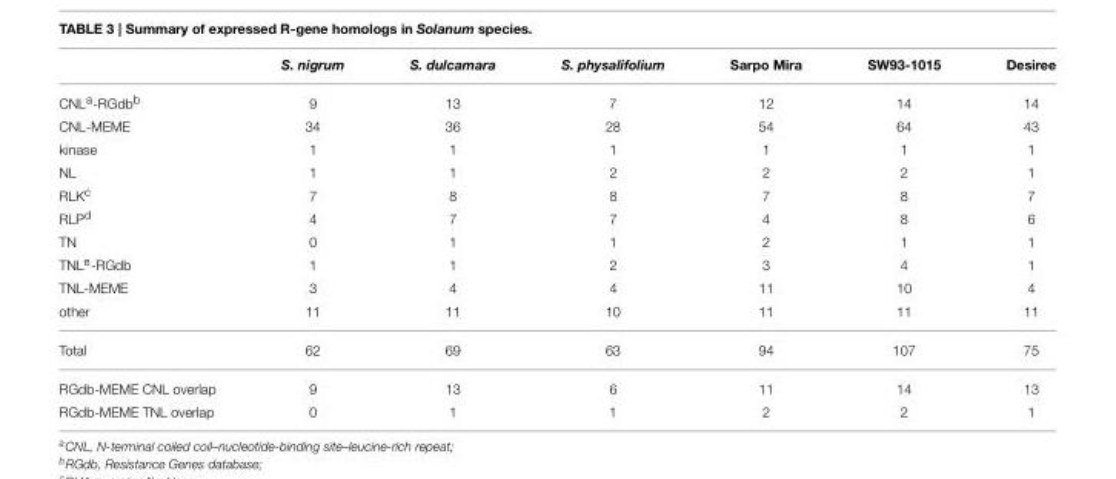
<table><thead><tr><td></td><td>S. nigrum</td><td>S. dulcamara</td><td>S. physalifolium</td><td>Sarpo Mira</td><td>SW93-1015</td><td>Desiree</td></tr></thead><tbody><tr><td>CNL<sup>a</sup>-RGdb<sup>b</sup></td><td>9</td><td>13</td><td>7</td><td>12</td><td>14</td><td>14</td></tr><tr><td>CNL-MEME</td><td>34</td><td>36</td><td>28</td><td>54</td><td>64</td><td>43</td></tr><tr><td>kinase</td><td>1</td><td>1</td><td>1</td><td>1</td><td>1</td><td>1</td></tr><tr><td>NL</td><td>1</td><td>1</td><td>2</td><td>2</td><td>2</td><td>1</td></tr><tr><td>RLK<sup>c</sup></td><td>7</td><td>8</td><td>8</td><td>7</td><td>8</td><td>7</td></tr><tr><td>RLP<sup>d</sup></td><td>4</td><td>7</td><td>7</td><td>4</td><td>8</td><td>6</td></tr><tr><td>TN</td><td>0</td><td>1</td><td>1</td><td>2</td><td>1</td><td>1</td></tr><tr><td>TNL<sup>e</sup>-RGdb</td><td>1</td><td>1</td><td>2</td><td>3</td><td>4</td><td>1</td></tr><tr><td>TNL-MEME</td><td>3</td><td>4</td><td>4</td><td>11</td><td>10</td><td>4</td></tr><tr><td>other</td><td>11</td><td>11</td><td>10</td><td>11</td><td>11</td><td>11</td></tr><tr><td>Total</td><td>62</td><td>69</td><td>63</td><td>94</td><td>107</td><td>75</td></tr><tr><td>RGdb-MEME CNL overlap</td><td>9</td><td>13</td><td>6</td><td>11</td><td>14</td><td>13</td></tr><tr><td>RGdb-MEME TNL overlap</td><td>0</td><td>1</td><td>1</td><td>2</td><td>2</td><td>1</td></tr></tbody></table>